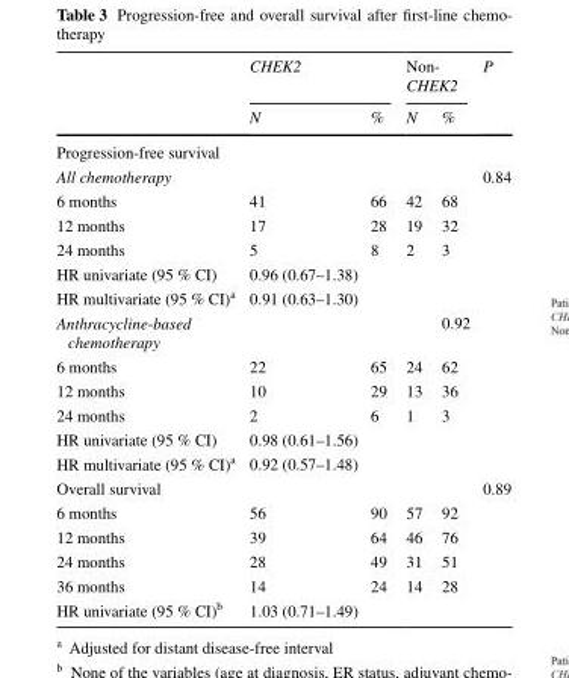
<table><thead><tr><td rowspan="2"></td><td colspan="2">CHEK2</td><td colspan="2">Non- CHEK2</td><td rowspan="2">P</td></tr><tr><td>N</td><td>%</td><td>N</td><td>%</td></tr></thead><tbody><tr><td colspan="6">Progression-free survival</td></tr><tr><td>All chemotherapy</td><td></td><td></td><td></td><td></td><td>0.84</td></tr><tr><td>6 months</td><td>41</td><td>66</td><td>42</td><td>68</td><td></td></tr><tr><td>12 months</td><td>17</td><td>28</td><td>19</td><td>32</td><td></td></tr><tr><td>24 months</td><td>5</td><td>8</td><td>2</td><td>3</td><td></td></tr><tr><td>HR univariate (95 % CI)</td><td>0.96 (0.67–1.38)</td><td></td><td></td><td></td><td></td></tr><tr><td>HR multivariate (95 % CI)<sup>a</sup></td><td>0.91 (0.63–1.30)</td><td></td><td></td><td></td><td></td></tr><tr><td>Anthracycline-based chemotherapy</td><td></td><td></td><td></td><td>0.92</td><td></td></tr><tr><td>6 months</td><td>22</td><td>65</td><td>24</td><td>62</td><td></td></tr><tr><td>12 months</td><td>10</td><td>29</td><td>13</td><td>36</td><td></td></tr><tr><td>24 months</td><td>2</td><td>6</td><td>1</td><td>3</td><td></td></tr><tr><td>HR univariate (95 % CI)</td><td>0.98 (0.61–1.56)</td><td></td><td></td><td></td><td></td></tr><tr><td>HR multivariate (95 % CI)<sup>a</sup></td><td>0.92 (0.57–1.48)</td><td></td><td></td><td></td><td></td></tr><tr><td>Overall survival</td><td></td><td></td><td></td><td></td><td>0.89</td></tr><tr><td>6 months</td><td>56</td><td>90</td><td>57</td><td>92</td><td></td></tr><tr><td>12 months</td><td>39</td><td>64</td><td>46</td><td>76</td><td></td></tr><tr><td>24 months</td><td>28</td><td>49</td><td>31</td><td>51</td><td></td></tr><tr><td>36 months</td><td>14</td><td>24</td><td>14</td><td>28</td><td></td></tr><tr><td>HR univariate (95 % CI)<sup>b</sup></td><td>1.03 (0.71–1.49)</td><td></td><td></td><td></td><td></td></tr></tbody></table>